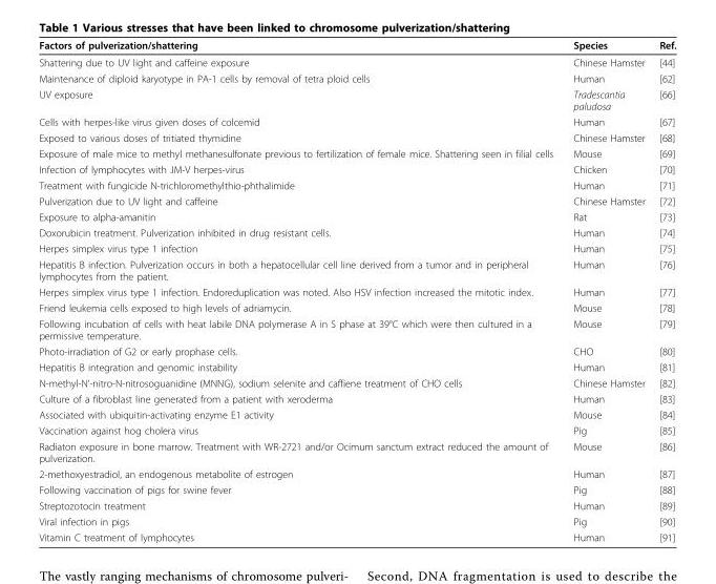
<table><thead><tr><td>Factors of pulverization/shattering</td><td>Species</td><td>Ref.</td></tr></thead><tbody><tr><td>Shattering due to UV light and caffeine exposure</td><td>Chinese Hamster</td><td>[44]</td></tr><tr><td>Maintenance of diploid karyotype in PA-1 cells by removal of tetra ploid cells</td><td>Human</td><td>[62]</td></tr><tr><td>UV exposure</td><td>Tradescantia paludosa</td><td>[66]</td></tr><tr><td>Cells with herpes-like virus given doses of colcemid</td><td>Human</td><td>[67]</td></tr><tr><td>Exposed to various doses of tritiated thymidine</td><td>Chinese Hamster</td><td>[68]</td></tr><tr><td>Exposure of male mice to methyl methanesulfonate previous to fertilization of female mice. Shattering seen in filial cells</td><td>Mouse</td><td>[69]</td></tr><tr><td>Infection of lymphocytes with JM-V herpes-virus</td><td>Chicken</td><td>[70]</td></tr><tr><td>Treatment with fungicide N-trichloromethylthio-phthalimide</td><td>Human</td><td>[71]</td></tr><tr><td>Pulverization due to UV light and caffeine</td><td>Chinese Hamster</td><td>[72]</td></tr><tr><td>Exposure to alpha-amanitin</td><td>Rat</td><td>[73]</td></tr><tr><td>Doxorubicin treatment. Pulverization inhibited in drug resistant cells.</td><td>Human</td><td>[74]</td></tr><tr><td>Herpes simplex virus type 1 infection</td><td>Human</td><td>[75]</td></tr><tr><td>Hepatitis B infection. Pulverization occurs in both a hepatocellular cell line derived from a tumor and in peripheral lymphocytes from the patient.</td><td>Human</td><td>[76]</td></tr><tr><td>Herpes simplex virus type 1 infection. Endoreduplication was noted. Also HSV infection increased the mitotic index.</td><td>Human</td><td>[77]</td></tr><tr><td>Friend leukemia cells exposed to high levels of adriamycin.</td><td>Mouse</td><td>[78]</td></tr><tr><td>Following incubation of cells with heat labile DNA polymerase A in S phase at 39°C which were then cultured in a permissive temperature.</td><td>Mouse</td><td>[79]</td></tr><tr><td>Photo-irradiation of G2 or early prophase cells.</td><td>CHO</td><td>[80]</td></tr><tr><td>Hepatitis B integration and genomic instability</td><td>Human</td><td>[81]</td></tr><tr><td>N-methyl-N’-nitro-N-nitrosoguanidine (MNNG), sodium selenite and caffiene treatment of CHO cells</td><td>Chinese Hamster</td><td>[82]</td></tr><tr><td>Culture of a fibroblast line generated from a patient with xeroderma</td><td>Human</td><td>[83]</td></tr><tr><td>Associated with ubiquitin-activating enzyme E1 activity</td><td>Mouse</td><td>[84]</td></tr><tr><td>Vaccination against hog cholera virus</td><td>Pig</td><td>[85]</td></tr><tr><td>Radiaton exposure in bone marrow. Treatment with WR-2721 and/or Ocimum sanctum extract reduced the amount of pulverization.</td><td>Mouse</td><td>[86]</td></tr><tr><td>2-methoxyestradiol, an endogenous metabolite of estrogen</td><td>Human</td><td>[87]</td></tr><tr><td>Following vaccination of pigs for swine fever</td><td>Pig</td><td>[88]</td></tr><tr><td>Streptozotocin treatment</td><td>Human</td><td>[89]</td></tr><tr><td>Viral infection in pigs</td><td>Pig</td><td>[90]</td></tr><tr><td>Vitamin C treatment of lymphocytes</td><td>Human</td><td>[91]</td></tr></tbody></table>